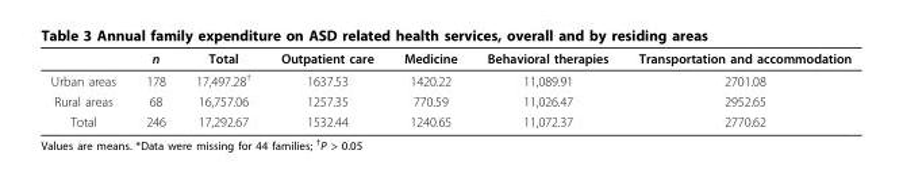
<table><thead><tr><td></td><td>n</td><td>Total</td><td>Outpatient care</td><td>Medicine</td><td>Behavioral therapies</td><td>Transportation and accommodation</td></tr></thead><tbody><tr><td>Urban areas</td><td>178</td><td>17,497.28<sup>†</sup></td><td>1637.53</td><td>1420.22</td><td>11,089.91</td><td>2701.08</td></tr><tr><td>Rural areas</td><td>68</td><td>16,757.06</td><td>1257.35</td><td>770.59</td><td>11,026.47</td><td>2952.65</td></tr><tr><td>Total</td><td>246</td><td>17,292.67</td><td>1532.44</td><td>1240.65</td><td>11,072.37</td><td>2770.62</td></tr></tbody></table>